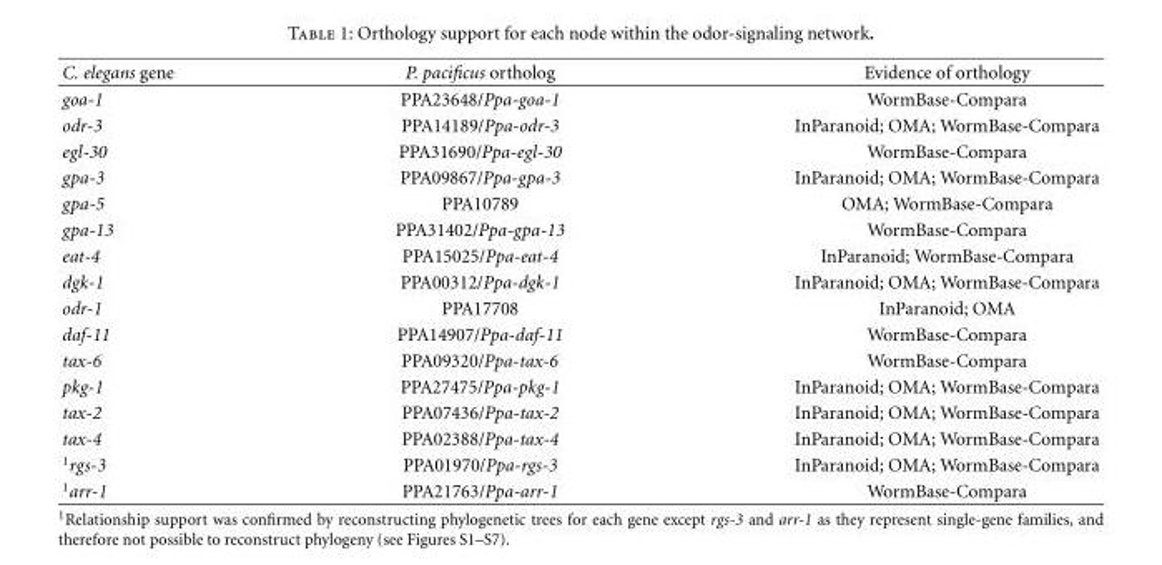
<table><thead><tr><td>C. elegans gene</td><td>P. pacificus ortholog</td><td>Evidence of orthology</td></tr></thead><tbody><tr><td>goa-1</td><td>PPA23648/Ppa-goa-1</td><td>WormBase-Compara</td></tr><tr><td>odr-3</td><td>PPA14189/Ppa-odr-3</td><td>InParanoid; OMA; WormBase-Compara</td></tr><tr><td>egl-30</td><td>PPA31690/Ppa-egl-30</td><td>WormBase-Compara</td></tr><tr><td>gpa-3</td><td>PPA09867/Ppa-gpa-3</td><td>InParanoid; OMA; WormBase-Compara</td></tr><tr><td>gpa-5</td><td>PPA10789</td><td>OMA; WormBase-Compara</td></tr><tr><td>gpa-13</td><td>PPA31402/Ppa-gpa-13</td><td>WormBase-Compara</td></tr><tr><td>eat-4</td><td>PPA15025/Ppa-eat-4</td><td>InParanoid; WormBase-Compara</td></tr><tr><td>dgk-1</td><td>PPA00312/Ppa-dgk-1</td><td>InParanoid; OMA; WormBase-Compara</td></tr><tr><td>odr-1</td><td>PPA17708</td><td>InParanoid; OMA</td></tr><tr><td>daf-11</td><td>PPA14907/Ppa-daf-11</td><td>WormBase-Compara</td></tr><tr><td>tax-6</td><td>PPA09320/Ppa-tax-6</td><td>WormBase-Compara</td></tr><tr><td>pkg-1</td><td>PPA27475/Ppa-pkg-1</td><td>InParanoid; OMA; WormBase-Compara</td></tr><tr><td>tax-2</td><td>PPA07436/Ppa-tax-2</td><td>InParanoid; OMA; WormBase-Compara</td></tr><tr><td>tax-4</td><td>PPA02388/Ppa-tax-4</td><td>InParanoid; OMA; WormBase-Compara</td></tr><tr><td><sup>1</sup>rgs-3</td><td>PPA01970/Ppa-rgs-3</td><td>InParanoid; OMA; WormBase-Compara</td></tr><tr><td><sup>1</sup>arr-1</td><td>PPA21763/Ppa-arr-1</td><td>WormBase-Compara</td></tr></tbody></table>